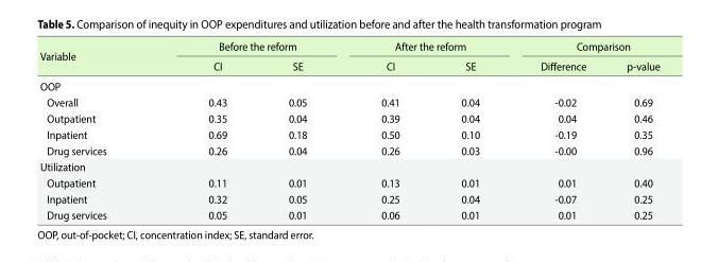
<table><thead><tr><td rowspan="2">Variable</td><td colspan="2">Before the reform</td><td colspan="2">After the reform</td><td colspan="2">Comparison</td></tr><tr><td>CI</td><td>SE</td><td>CI</td><td>SE</td><td>Difference</td><td>p-value</td></tr></thead><tbody><tr><td colspan="7">OOP</td></tr><tr><td>Overall</td><td>0.43</td><td>0.05</td><td>0.41</td><td>0.04</td><td>-0.02</td><td>0.69</td></tr><tr><td>Outpatient</td><td>0.35</td><td>0.04</td><td>0.39</td><td>0.04</td><td>0.04</td><td>0.46</td></tr><tr><td>Inpatient</td><td>0.69</td><td>0.18</td><td>0.50</td><td>0.10</td><td>-0.19</td><td>0.35</td></tr><tr><td>Drug services</td><td>0.26</td><td>0.04</td><td>0.26</td><td>0.03</td><td>-0.00</td><td>0.96</td></tr><tr><td colspan="7">Utilization</td></tr><tr><td>Outpatient</td><td>0.11</td><td>0.01</td><td>0.13</td><td>0.01</td><td>0.01</td><td>0.40</td></tr><tr><td>Inpatient</td><td>0.32</td><td>0.05</td><td>0.25</td><td>0.04</td><td>-0.07</td><td>0.25</td></tr><tr><td>Drug services</td><td>0.05</td><td>0.01</td><td>0.06</td><td>0.01</td><td>0.01</td><td>0.25</td></tr></tbody></table>